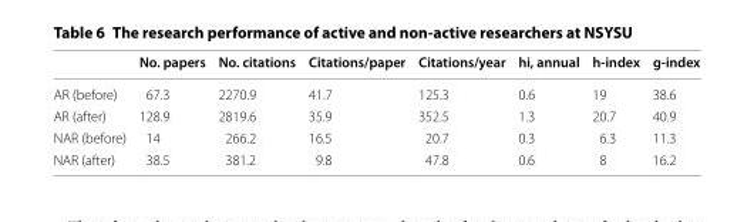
<table><thead><tr><td></td><td>No. papers</td><td>No. citations</td><td>Citations/paper</td><td>Citations/year</td><td>hi, annual</td><td>h-index</td><td>g-index</td></tr></thead><tbody><tr><td>AR (before)</td><td>67.3</td><td>2270.9</td><td>41.7</td><td>125.3</td><td>0.6</td><td>19</td><td>38.6</td></tr><tr><td>AR (after)</td><td>128.9</td><td>2819.6</td><td>35.9</td><td>352.5</td><td>1.3</td><td>20.7</td><td>40.9</td></tr><tr><td>NAR (before)</td><td>14</td><td>266.2</td><td>16.5</td><td>20.7</td><td>0.3</td><td>6.3</td><td>11.3</td></tr><tr><td>NAR (after)</td><td>38.5</td><td>381.2</td><td>9.8</td><td>47.8</td><td>0.6</td><td>8</td><td>16.2</td></tr></tbody></table>